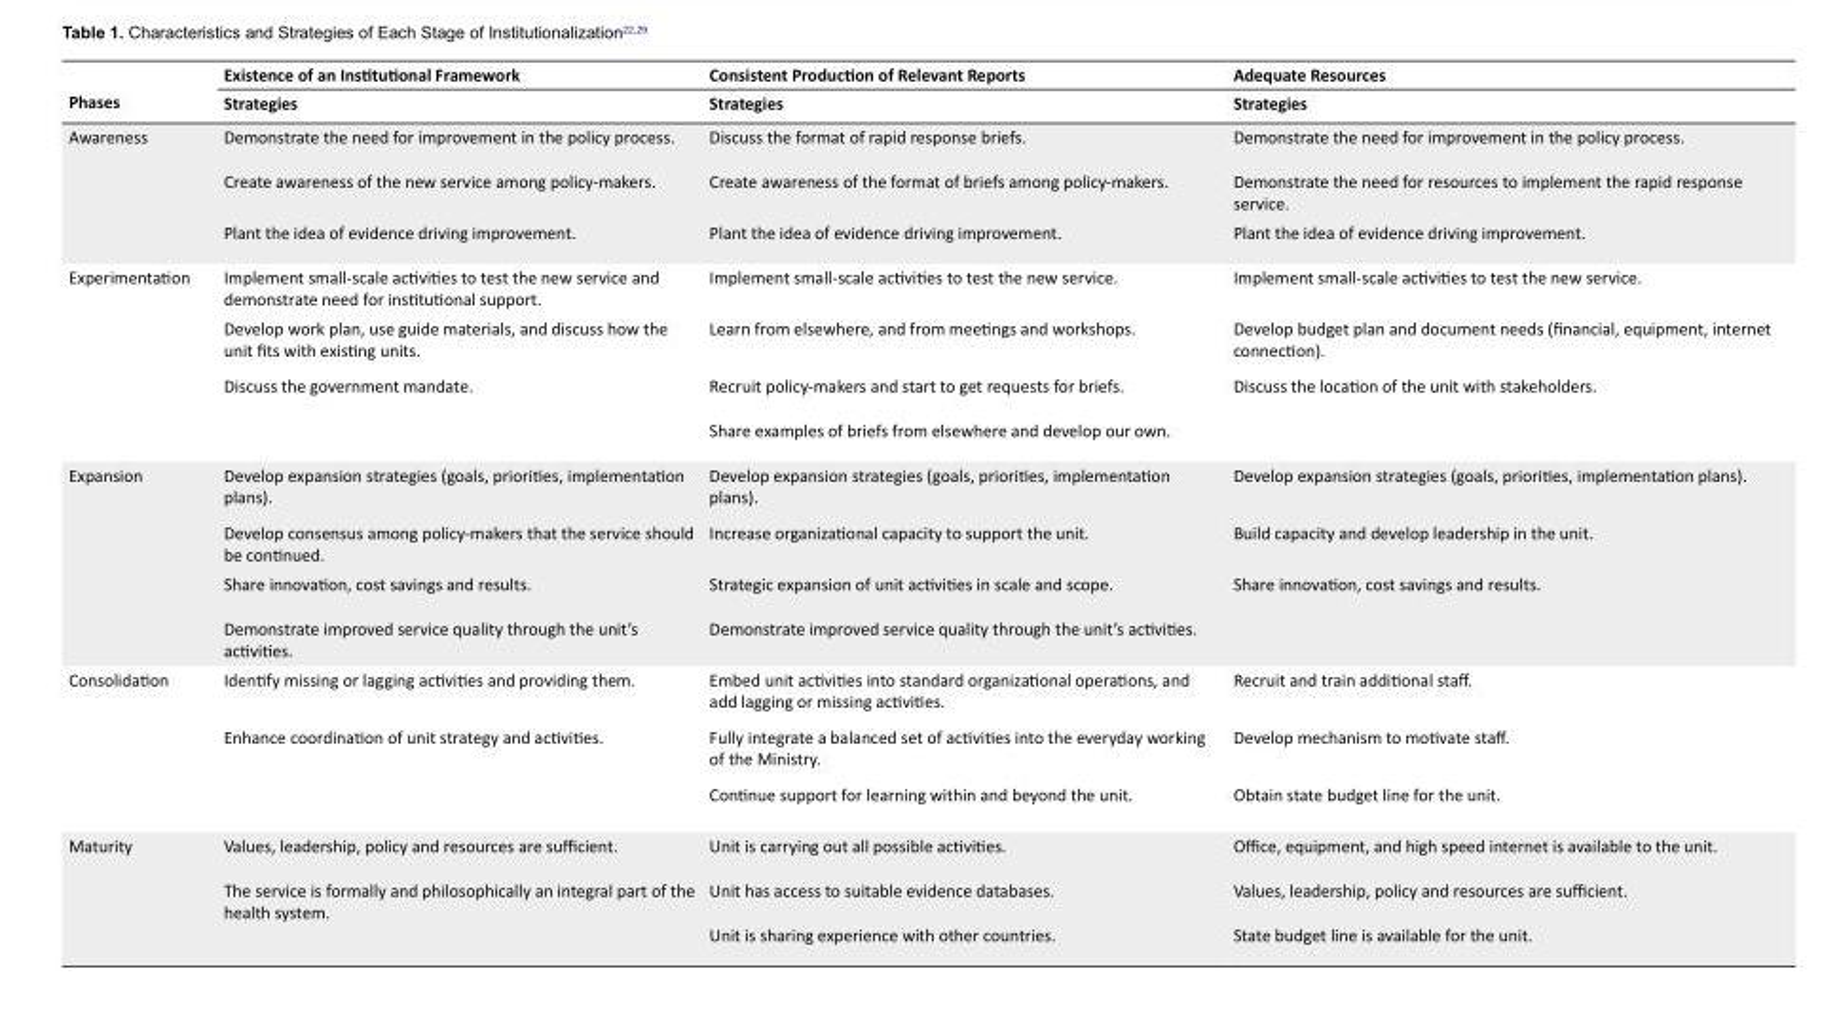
<table><tbody><tr><td rowspan="2">Phases</td><td>Existence of an Institutional Framework</td><td>Consistent Production of Relevant Reports</td><td>Adequate Resources</td></tr><tr><td>Strategies</td><td>Strategies</td><td>Strategies</td></tr><tr><td rowspan="3">Awareness</td><td>Demonstrate the need for improvement in the policy process.</td><td>Discuss the format of rapid response briefs.</td><td>Demonstrate the need for improvement in the policy process.</td></tr><tr><td>Create awareness of the new service among policy-makers.</td><td>Create awareness of the format of briefs among policy-makers.</td><td>Demonstrate the need for resources to implement the rapid response service.</td></tr><tr><td>Plant the idea of evidence driving improvement.</td><td>Plant the idea of evidence driving improvement.</td><td>Plant the idea of evidence driving improvement.</td></tr><tr><td rowspan="4">Experimentation</td><td>Implement small-scale activities to test the new service and demonstrate need for institutional support.</td><td>Implement small-scale activities to test the new service.</td><td>Implement small-scale activities to test the new service.</td></tr><tr><td>Develop work plan, use guide materials, and discuss how the unit fits with existing units.</td><td>Learn from elsewhere, and from meetings and workshops.</td><td>Develop budget plan and document needs (financial, equipment, internet connection).</td></tr><tr><td>Discuss the government mandate.</td><td>Recruit policy-makers and start to get requests for briefs.</td><td>Discuss the location of the unit with stakeholders.</td></tr><tr><td></td><td>Share examples of briefs from elsewhere and develop our own.</td><td></td></tr><tr><td rowspan="4">Expansion</td><td>Develop expansion strategies (goals, priorities, implementation plans).</td><td>Develop expansion strategies (goals, priorities, implementation plans).</td><td>Develop expansion strategies (goals, priorities, implementation plans).</td></tr><tr><td>Develop consensus among policy-makers that the service should be continued.</td><td>Increase organizational capacity to support the unit.</td><td>Build capacity and develop leadership in the unit.</td></tr><tr><td>Share innovation, cost savings and results.</td><td>Strategic expansion of unit activities in scale and scope.</td><td>Share innovation, cost savings and results.</td></tr><tr><td>Demonstrate improved service quality through the unit’s activities.</td><td>Demonstrate improved service quality through the unit’s activities.</td><td></td></tr><tr><td rowspan="3">Consolidation</td><td>Identify missing or lagging activities and providing them.</td><td>Embed unit activities into standard organizational operations, and add lagging or missing activities.</td><td>Recruit and train additional staff.</td></tr><tr><td>Enhance coordination of unit strategy and activities.</td><td>Fully integrate a balanced set of activities into the everyday working of the Ministry.</td><td>Develop mechanism to motivate staff.</td></tr><tr><td></td><td>Continue support for learning within and beyond the unit.</td><td>Obtain state budget line for the unit.</td></tr><tr><td rowspan="3">Maturity</td><td>Values, leadership, policy and resources are sufficient.</td><td>Unit is carrying out all possible activities.</td><td>Office, equipment, and high speed internet is available to the unit.</td></tr><tr><td>The service is formally and philosophically an integral part of the health system.</td><td>Unit has access to suitable evidence databases.</td><td>Values, leadership, policy and resources are sufficient.</td></tr><tr><td></td><td>Unit is sharing experience with other countries.</td><td>State budget line is available for the unit.</td></tr></tbody></table>